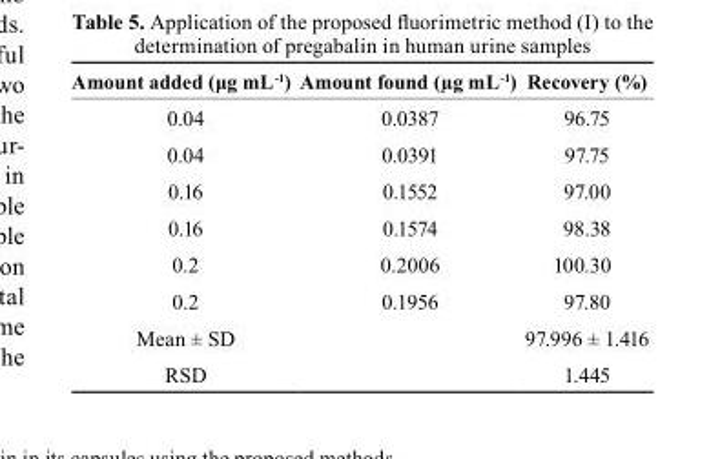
<table><thead><tr><td>amount added (μg mL<sup>-1</sup>)</td><td>amount found (µg mL<sup>-1</sup>)</td><td>recovery (%)</td></tr></thead><tbody><tr><td>0.04</td><td>0.0387</td><td>96.75</td></tr><tr><td>0.04</td><td>0.0391</td><td>97.75</td></tr><tr><td>0.16</td><td>0.1552</td><td>97.00</td></tr><tr><td>0.16</td><td>0.1574</td><td>98.38</td></tr><tr><td>0.2</td><td>0.2006</td><td>100.30</td></tr><tr><td>0.2</td><td>0.1956</td><td>97.80</td></tr><tr><td>Mean ± SD</td><td></td><td>97.996 ± 1.416</td></tr><tr><td>RSD</td><td></td><td>1.445</td></tr></tbody></table>